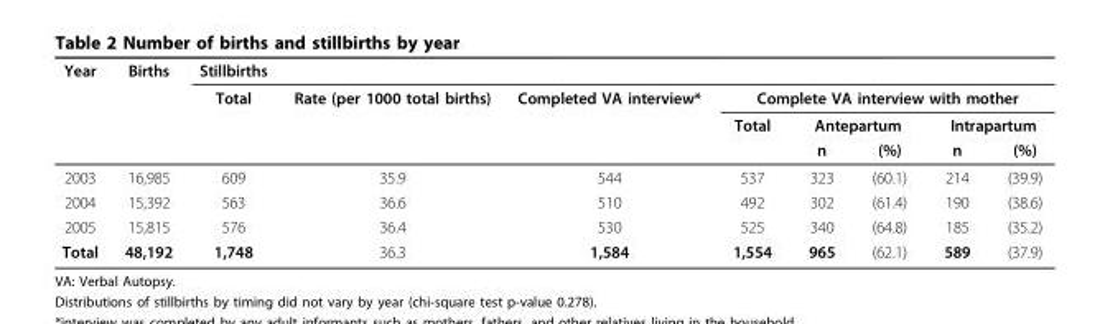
<table><thead><tr><td rowspan="4">Year</td><td rowspan="4">Births</td><td rowspan="4">Stillbirths Total</td><td rowspan="4">Rate (per 1000 total births)</td><td rowspan="4">Completed VA interview*</td><td></td><td></td><td></td><td></td><td></td></tr><tr><td colspan="5">Complete VA interview with mother</td></tr><tr><td rowspan="2">Total</td><td colspan="2">Antepartum</td><td colspan="2">Intrapartum</td></tr><tr><td>n</td><td>(%)</td><td>n</td><td>(%)</td></tr></thead><tbody><tr><td>2003</td><td>16,985</td><td>609</td><td>35.9</td><td>544</td><td>537</td><td>323</td><td>(60.1)</td><td>214</td><td>(39.9)</td></tr><tr><td>2004</td><td>15,392</td><td>563</td><td>36.6</td><td>510</td><td>492</td><td>302</td><td>(61.4)</td><td>190</td><td>(38.6)</td></tr><tr><td>2005</td><td>15,815</td><td>576</td><td>36.4</td><td>530</td><td>525</td><td>340</td><td>(64.8)</td><td>185</td><td>(35.2)</td></tr><tr><td>Total</td><td>48,192</td><td>1,748</td><td>36.3</td><td>1,584</td><td>1,554</td><td>965</td><td>(62.1)</td><td>589</td><td>(37.9)</td></tr></tbody></table>